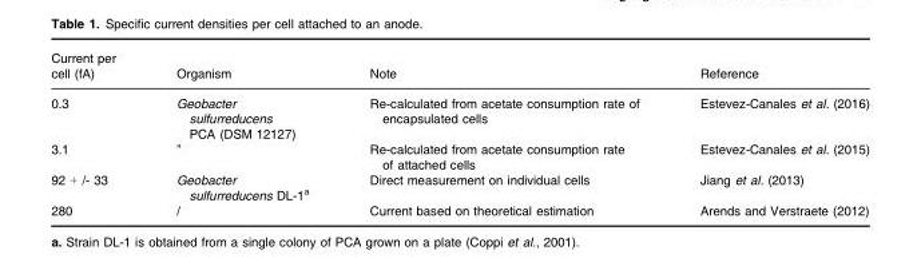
<table><thead><tr><td>Current per cell (fA)</td><td>Organism</td><td>Note</td><td>Reference</td></tr></thead><tbody><tr><td>0.3</td><td>Geobacter sulfurreducens PCA (DSM 12127)</td><td>Re-calculated from acetate consumption rate of encapsulated cells</td><td>Estevez-Canales et al. (2016)</td></tr><tr><td>3.1</td><td>”</td><td>Re-calculated from acetate consumption rate of attached cells</td><td>Estevez-Canales et al. (2015)</td></tr><tr><td>92 + /- 33</td><td>Geobacter sulfurreducens DL-1<sup>a</sup></td><td>Direct measurement on individual cells</td><td>Jiang et al. (2013)</td></tr><tr><td>280</td><td>/</td><td>Current based on theoretical estimation</td><td>Arends and Verstraete (2012)</td></tr></tbody></table>